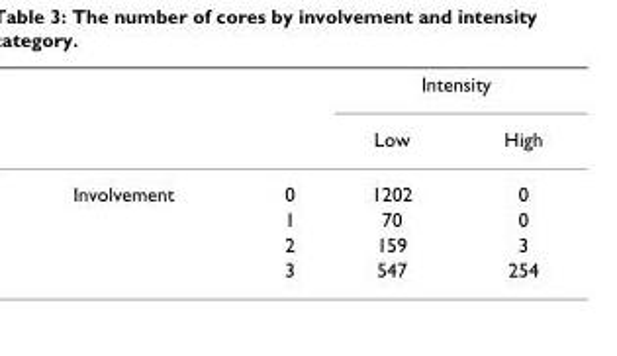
<table><thead><tr><td rowspan="2"></td><td rowspan="2"></td><td colspan="2">Intensity</td></tr><tr><td>Low</td><td>High</td></tr></thead><tbody><tr><td rowspan="4">Involvement</td><td>0</td><td>1202</td><td>0</td></tr><tr><td>1</td><td>70</td><td>0</td></tr><tr><td>2</td><td>159</td><td>3</td></tr><tr><td>3</td><td>547</td><td>254</td></tr></tbody></table>